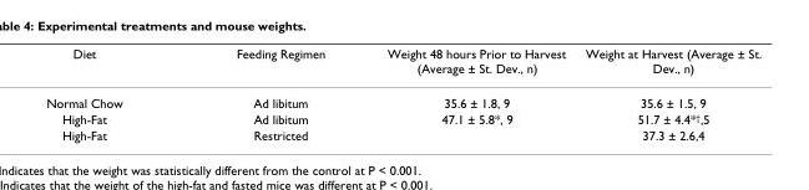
<table><thead><tr><td>Diet</td><td>Feeding Regimen</td><td>Weight 48 hours Prior to Harvest (Average ± St. Dev., n)</td><td>Weight at Harvest (Average ± St. Dev., n)</td></tr></thead><tbody><tr><td>Normal Chow</td><td>Ad libitum</td><td>35.6 ± 1.8, 9</td><td>35.6 ± 1.5, 9</td></tr><tr><td>High-Fat</td><td>Ad libitum</td><td>47.1 ± 5.8*, 9</td><td>51.7 ± 4.4*<sup>†</sup>,5</td></tr><tr><td>High-Fat</td><td>Restricted</td><td></td><td>37.3 ± 2.6,4</td></tr></tbody></table>